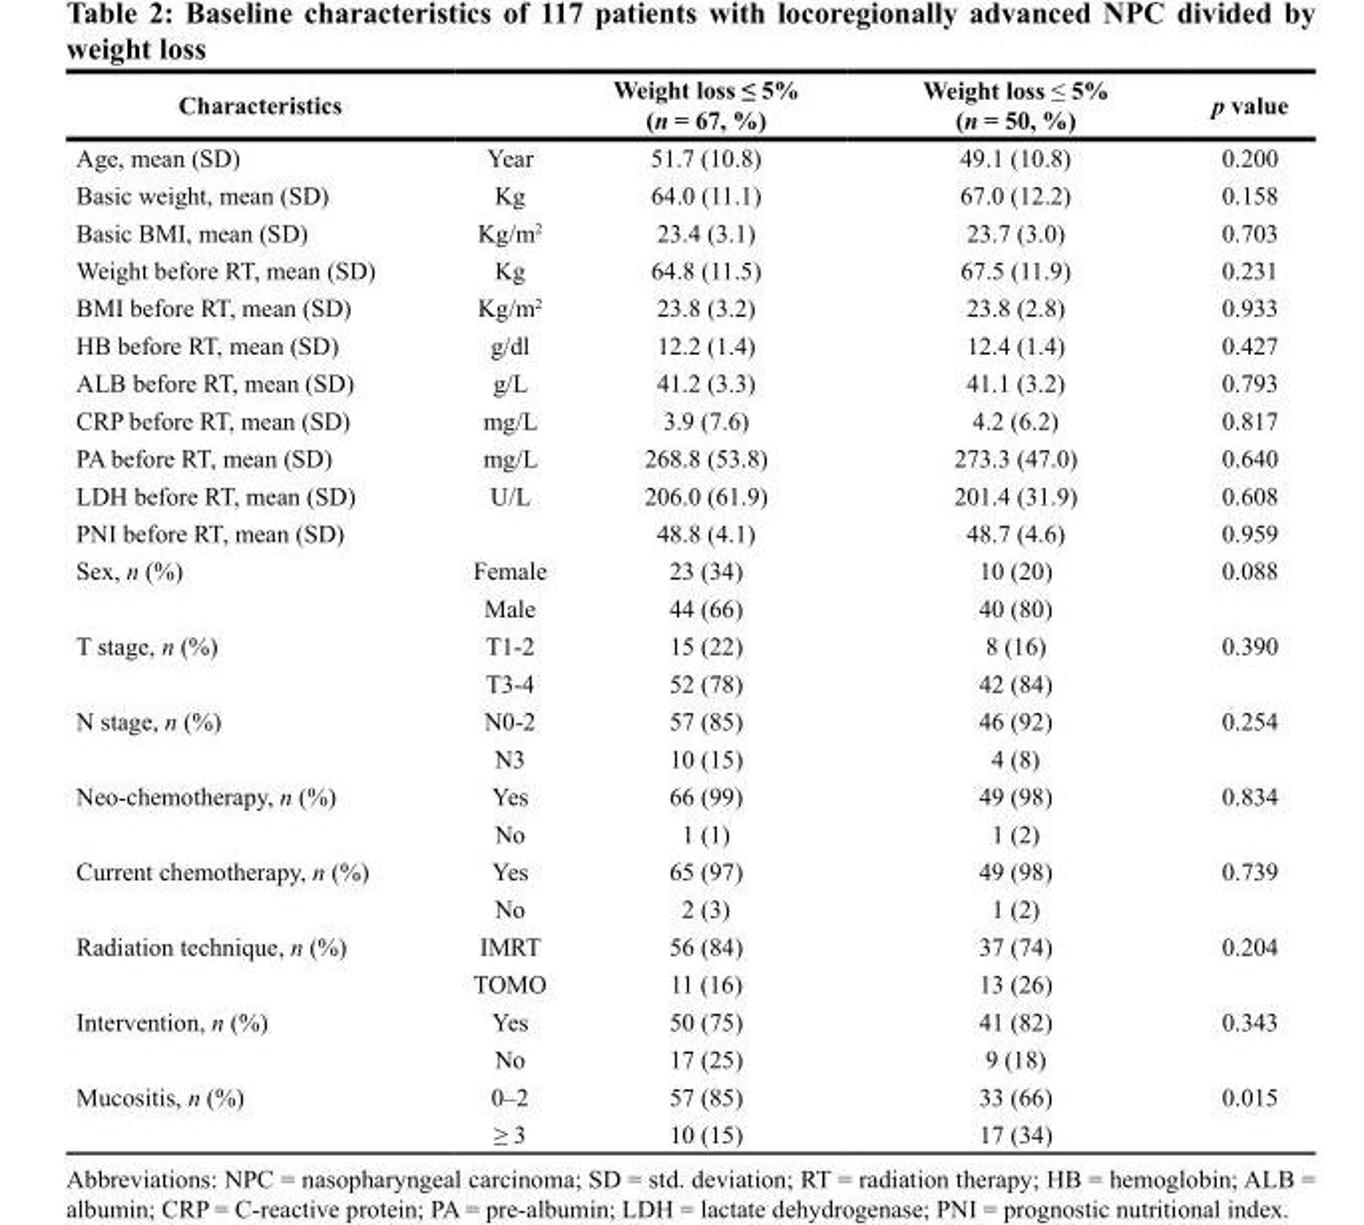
<table><thead><tr><td>Characteristics</td><td></td><td>Weight loss ≤ 5% (n = 67, %)</td><td>Weight loss ≤ 5% (n = 50, %)</td><td>p value</td></tr></thead><tbody><tr><td>Age, mean (SD)</td><td>Year</td><td>51.7 (10.8)</td><td>49.1 (10.8)</td><td>0.200</td></tr><tr><td>Basic weight, mean (SD)</td><td>Kg</td><td>64.0 (11.1)</td><td>67.0 (12.2)</td><td>0.158</td></tr><tr><td>Basic BMI, mean (SD)</td><td>Kg/m<sup>2</sup></td><td>23.4 (3.1)</td><td>23.7 (3.0)</td><td>0.703</td></tr><tr><td>Weight before RT, mean (SD)</td><td>Kg</td><td>64.8 (11.5)</td><td>67.5 (11.9)</td><td>0.231</td></tr><tr><td>BMI before RT, mean (SD)</td><td>Kg/m<sup>2</sup></td><td>23.8 (3.2)</td><td>23.8 (2.8)</td><td>0.933</td></tr><tr><td>HB before RT, mean (SD)</td><td>g/dl</td><td>12.2 (1.4)</td><td>12.4 (1.4)</td><td>0.427</td></tr><tr><td>ALB before RT, mean (SD)</td><td>g/L</td><td>41.2 (3.3)</td><td>41.1 (3.2)</td><td>0.793</td></tr><tr><td>CRP before RT, mean (SD)</td><td>mg/L</td><td>3.9 (7.6)</td><td>4.2 (6.2)</td><td>0.817</td></tr><tr><td>PA before RT, mean (SD)</td><td>mg/L</td><td>268.8 (53.8)</td><td>273.3 (47.0)</td><td>0.640</td></tr><tr><td>LDH before RT, mean (SD)</td><td>U/L</td><td>206.0 (61.9)</td><td>201.4 (31.9)</td><td>0.608</td></tr><tr><td>PNI before RT, mean (SD)</td><td></td><td>48.8 (4.1)</td><td>48.7 (4.6)</td><td>0.959</td></tr><tr><td rowspan="2">Sex, n (%)</td><td>Female</td><td>23 (34)</td><td>10 (20)</td><td>0.088</td></tr><tr><td>Male</td><td>44 (66)</td><td>40 (80)</td><td></td></tr><tr><td rowspan="2">T stage, n (%)</td><td>T1-2</td><td>15 (22)</td><td>8 (16)</td><td>0.390</td></tr><tr><td>T3-4</td><td>52 (78)</td><td>42 (84)</td><td></td></tr><tr><td rowspan="2">N stage, n (%)</td><td>N0-2</td><td>57 (85)</td><td>46 (92)</td><td>0.254</td></tr><tr><td>N3</td><td>10 (15)</td><td>4 (8)</td><td></td></tr><tr><td rowspan="2">Neo-chemotherapy, n (%)</td><td>Yes</td><td>66 (99)</td><td>49 (98)</td><td>0.834</td></tr><tr><td>No</td><td>1 (1)</td><td>1 (2)</td><td></td></tr><tr><td rowspan="2">Current chemotherapy, n (%)</td><td>Yes</td><td>65 (97)</td><td>49 (98)</td><td>0.739</td></tr><tr><td>No</td><td>2 (3)</td><td>1 (2)</td><td></td></tr><tr><td rowspan="2">Radiation technique, n (%)</td><td>IMRT</td><td>56 (84)</td><td>37 (74)</td><td>0.204</td></tr><tr><td>TOMO</td><td>11 (16)</td><td>13 (26)</td><td></td></tr><tr><td rowspan="2">Intervention, n (%)</td><td>Yes</td><td>50 (75)</td><td>41 (82)</td><td>0.343</td></tr><tr><td>No</td><td>17 (25)</td><td>9 (18)</td><td></td></tr><tr><td rowspan="2">Mucositis, n (%)</td><td>0–2</td><td>57 (85)</td><td>33 (66)</td><td>0.015</td></tr><tr><td>≥ 3</td><td>10 (15)</td><td>17 (34)</td><td></td></tr></tbody></table>